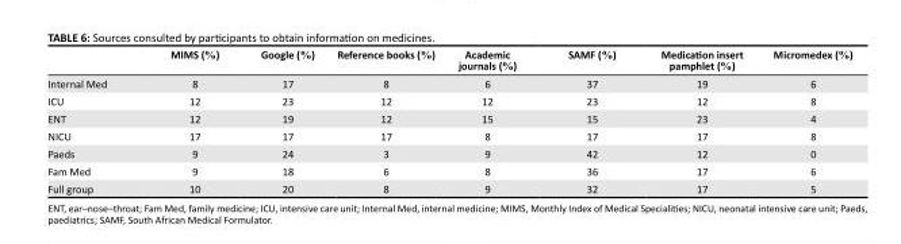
<table><thead><tr><td></td><td>MIMS (%)</td><td>Google (%)</td><td>Reference books (%)</td><td>Academic journals (%)</td><td>SAMF (%)</td><td>Medication insert pamphlet (%)</td><td>Micromedex (%)</td></tr></thead><tbody><tr><td>Internal Med</td><td>8</td><td>17</td><td>8</td><td>6</td><td>37</td><td>19</td><td>6</td></tr><tr><td>ICU</td><td>12</td><td>23</td><td>12</td><td>12</td><td>23</td><td>12</td><td>8</td></tr><tr><td>ENT</td><td>12</td><td>19</td><td>12</td><td>15</td><td>15</td><td>23</td><td>4</td></tr><tr><td>NICU</td><td>17</td><td>17</td><td>17</td><td>8</td><td>17</td><td>17</td><td>8</td></tr><tr><td>Paeds</td><td>9</td><td>24</td><td>3</td><td>9</td><td>42</td><td>12</td><td>0</td></tr><tr><td>Fam Med</td><td>9</td><td>18</td><td>6</td><td>8</td><td>36</td><td>17</td><td>6</td></tr><tr><td>Full group</td><td>10</td><td>20</td><td>8</td><td>9</td><td>32</td><td>17</td><td>5</td></tr></tbody></table>